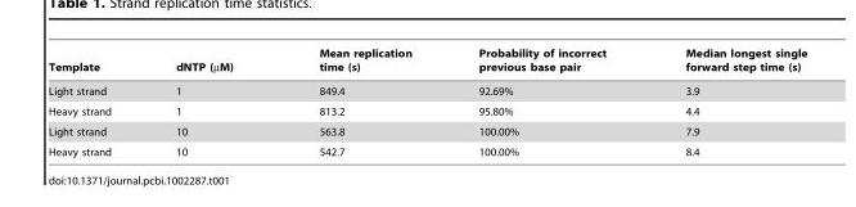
<table><thead><tr><td>Template</td><td>dNTP (µM)</td><td>Mean replication time (s)</td><td>Probability of incorrect previous base pair</td><td>Median longest single forward step time (s)</td></tr></thead><tbody><tr><td>Light strand</td><td>1</td><td>849.4</td><td>92.69%</td><td>3.9</td></tr><tr><td>Heavy strand</td><td>1</td><td>813.2</td><td>95.80%</td><td>4.4</td></tr><tr><td>Light strand</td><td>10</td><td>563.8</td><td>100.00%</td><td>7.9</td></tr><tr><td>Heavy strand</td><td>10</td><td>542.7</td><td>100.00%</td><td>8.4</td></tr></tbody></table>